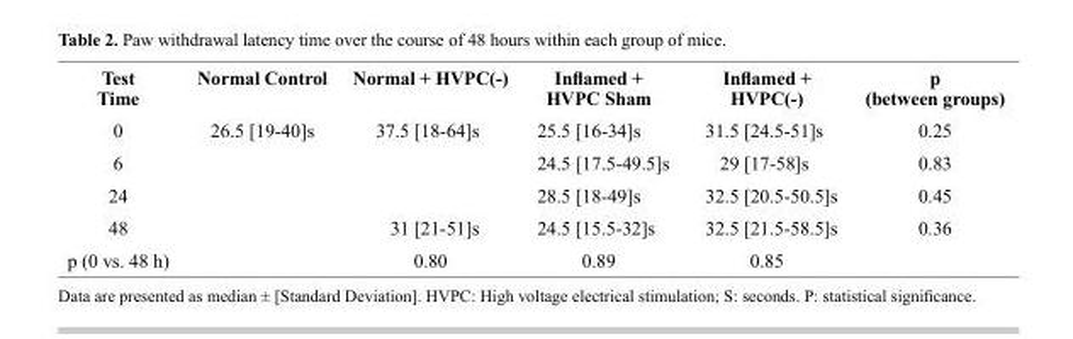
<table><thead><tr><td>Test Time</td><td>Normal Control</td><td>Normal + HVPC(-)</td><td>Inflamed + HVPC Sham</td><td>Inflamed + HVPC(-)</td><td>p (between groups)</td></tr></thead><tbody><tr><td>0</td><td>26.5 [19-40]s</td><td>37.5 [18-64]s</td><td>25.5 [16-34]s</td><td>31.5 [24.5-51]s</td><td>0.25</td></tr><tr><td>6</td><td></td><td></td><td>24.5 [17.5-49.5]s</td><td>29 [17-58]s</td><td>0.83</td></tr><tr><td>24</td><td></td><td></td><td>28.5 [18-49]s</td><td>32.5 [20.5-50.5]s</td><td>0.45</td></tr><tr><td>48</td><td></td><td>31 [21-51]s</td><td>24.5 [15.5-32]s</td><td>32.5 [21.5-58.5]s</td><td>0.36</td></tr><tr><td>p (0 vs. 48 h)</td><td></td><td>0.80</td><td>0.89</td><td>0.85</td><td></td></tr></tbody></table>